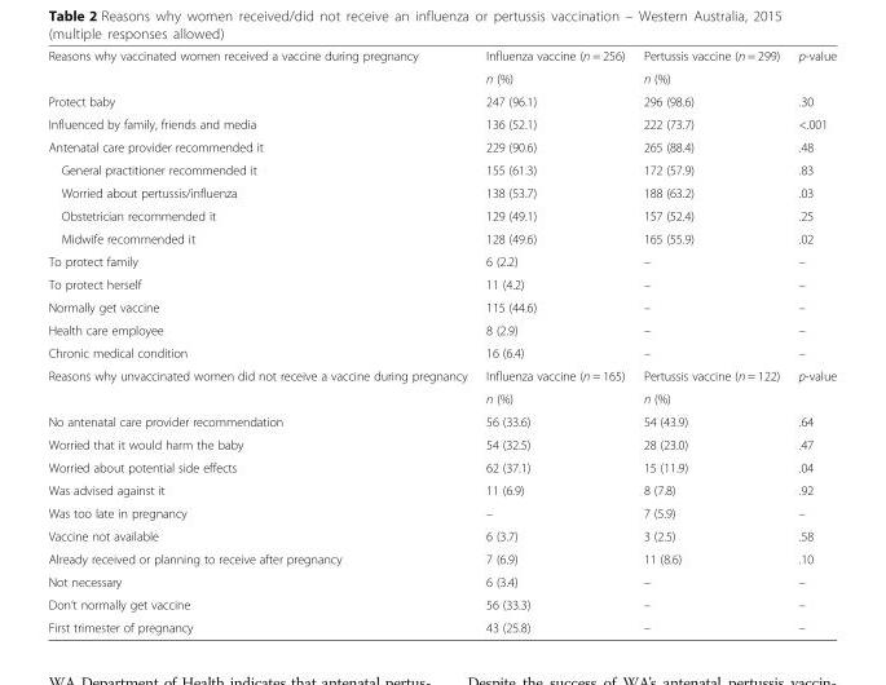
<table><tbody><tr><td rowspan="2">Reasons why vaccinated women received a vaccine during pregnancy</td><td>Influenza vaccine (n = 256)</td><td>Pertussis vaccine (n = 299)</td><td rowspan="2">p-value</td></tr><tr><td>n (%)</td><td>n (%)</td></tr><tr><td>Protect baby</td><td>247 (96.1)</td><td>296 (98.6)</td><td>.30</td></tr><tr><td>Influenced by family, friends and media</td><td>136 (52.1)</td><td>222 (73.7)</td><td>&lt;.001</td></tr><tr><td>Antenatal care provider recommended it</td><td>229 (90.6)</td><td>265 (88.4)</td><td>.48</td></tr><tr><td>General practitioner recommended it</td><td>155 (61.3)</td><td>172 (57.9)</td><td>.83</td></tr><tr><td>Worried about pertussis/influenza</td><td>138 (53.7)</td><td>188 (63.2)</td><td>.03</td></tr><tr><td>Obstetrician recommended it</td><td>129 (49.1)</td><td>157 (52.4)</td><td>.25</td></tr><tr><td>Midwife recommended it</td><td>128 (49.6)</td><td>165 (55.9)</td><td>.02</td></tr><tr><td>To protect family</td><td>6 (2.2)</td><td>–</td><td>–</td></tr><tr><td>To protect herself</td><td>11 (4.2)</td><td>–</td><td>–</td></tr><tr><td>Normally get vaccine</td><td>115 (44.6)</td><td>–</td><td>–</td></tr><tr><td>Health care employee</td><td>8 (2.9)</td><td>–</td><td>–</td></tr><tr><td>Chronic medical condition</td><td>16 (6.4)</td><td>–</td><td>–</td></tr><tr><td rowspan="2">Reasons why unvaccinated women did not receive a vaccine during pregnancy</td><td>Influenza vaccine (n = 165)</td><td>Pertussis vaccine (n = 122)</td><td rowspan="2">p-value</td></tr><tr><td>n (%)</td><td>n (%)</td></tr><tr><td>No antenatal care provider recommendation</td><td>56 (33.6)</td><td>54 (43.9)</td><td>.64</td></tr><tr><td>Worried that it would harm the baby</td><td>54 (32.5)</td><td>28 (23.0)</td><td>.47</td></tr><tr><td>Worried about potential side effects</td><td>62 (37.1)</td><td>15 (11.9)</td><td>.04</td></tr><tr><td>Was advised against it</td><td>11 (6.9)</td><td>8 (7.8)</td><td>.92</td></tr><tr><td>Was too late in pregnancy</td><td>–</td><td>7 (5.9)</td><td>–</td></tr><tr><td>Vaccine not available</td><td>6 (3.7)</td><td>3 (2.5)</td><td>.58</td></tr><tr><td>Already received or planning to receive after pregnancy</td><td>7 (6.9)</td><td>11 (8.6)</td><td>.10</td></tr><tr><td>Not necessary</td><td>6 (3.4)</td><td>–</td><td>–</td></tr><tr><td>Don’t normally get vaccine</td><td>56 (33.3)</td><td>–</td><td>–</td></tr><tr><td>First trimester of pregnancy</td><td>43 (25.8)</td><td>–</td><td>–</td></tr></tbody></table>